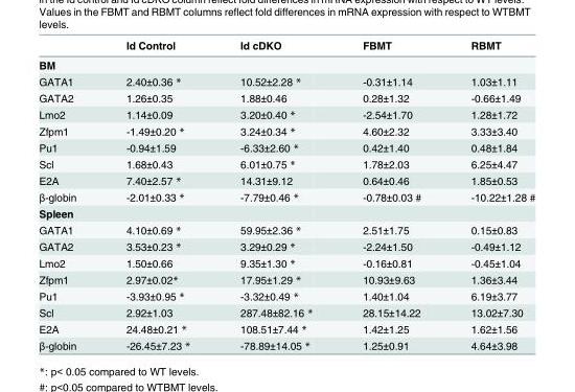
<table><thead><tr><td></td><td>Id Control</td><td>Id cDKO</td><td>FBMT</td><td>RBMT</td></tr></thead><tbody><tr><td colspan="5">BM</td></tr><tr><td>GATA1</td><td>2.40±0.36 *</td><td>10.52±2.28 *</td><td>-0.31±1.14</td><td>1.03±1.11</td></tr><tr><td>GATA2</td><td>1.26±0.35</td><td>1.88±0.46</td><td>0.28±1.32</td><td>-0.66±1.49</td></tr><tr><td>Lmo2</td><td>1.14±0.09</td><td>3.20±0.40 *</td><td>-2.54±1.70</td><td>1.28±1.72</td></tr><tr><td>Zfpm1</td><td>-1.49±0.20 *</td><td>3.24±0.34 *</td><td>4.60±2.32</td><td>3.33±3.40</td></tr><tr><td>Pu1</td><td>-0.94±1.59</td><td>-6.33±2.60 *</td><td>0.42±1.40</td><td>0.48±1.84</td></tr><tr><td>Scl</td><td>1.68±0.43</td><td>6.01±0.75 *</td><td>1.78±2.03</td><td>6.25±4.47</td></tr><tr><td>E2A</td><td>7.40±2.57 *</td><td>14.31±9.12</td><td>0.64±0.46</td><td>1.85±0.53</td></tr><tr><td>β-globin</td><td>-2.01±0.33 *</td><td>-7.79±0.46 *</td><td>-0.78±0.03 #</td><td>-10.22±1.28 #</td></tr><tr><td colspan="5">Spleen</td></tr><tr><td>GATA1</td><td>4.10±0.69 *</td><td>59.95±2.36 *</td><td>2.51±1.75</td><td>0.15±0.83</td></tr><tr><td>GATA2</td><td>3.53±0.23 *</td><td>3.29±0.29 *</td><td>-2.24±1.50</td><td>-0.49±1.12</td></tr><tr><td>Lmo2</td><td>1.50±0.66</td><td>9.35±1.30 *</td><td>-0.16±0.81</td><td>-0.45±1.04</td></tr><tr><td>Zfpm1</td><td>2.97±0.02*</td><td>17.95±1.29 *</td><td>10.93±9.63</td><td>1.36±3.44</td></tr><tr><td>Pu1</td><td>-3.93±0.95 *</td><td>-3.32±0.49 *</td><td>1.40±1.04</td><td>6.19±3.77</td></tr><tr><td>Scl</td><td>2.92±1.03</td><td>287.48±82.16 *</td><td>28.15±14.22</td><td>13.02±7.30</td></tr><tr><td>E2A</td><td>24.48±0.21 *</td><td>108.51±7.44 *</td><td>1.42±1.25</td><td>1.62±1.56</td></tr><tr><td>β-globin</td><td>-26.45±7.23 *</td><td>-78.89±14.05 *</td><td>1.25±0.91</td><td>4.64±3.98</td></tr></tbody></table>